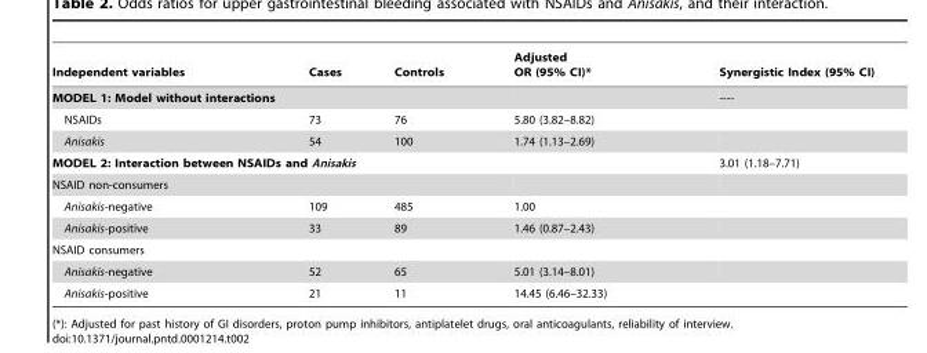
<table><thead><tr><td>Independent variables</td><td>Cases</td><td>Controls</td><td>Adjusted OR (95% CI)*</td><td>Synergistic Index (95% CI)</td></tr></thead><tbody><tr><td colspan="4">MODEL 1: Model without interactions</td><td>----</td></tr><tr><td>NSAIDs</td><td>73</td><td>76</td><td>5.80 (3.82–8.82)</td><td></td></tr><tr><td>Anisakis</td><td>54</td><td>100</td><td>1.74 (1.13–2.69)</td><td></td></tr><tr><td colspan="4">MODEL 2: Interaction between NSAIDs and Anisakis</td><td>3.01 (1.18–7.71)</td></tr><tr><td colspan="5">NSAID non-consumers</td></tr><tr><td>Anisakis-negative</td><td>109</td><td>485</td><td>1.00</td><td></td></tr><tr><td>Anisakis-positive</td><td>33</td><td>89</td><td>1.46 (0.87–2.43)</td><td></td></tr><tr><td colspan="5">NSAID consumers</td></tr><tr><td>Anisakis-negative</td><td>52</td><td>65</td><td>5.01 (3.14–8.01)</td><td></td></tr><tr><td>Anisakis-positive</td><td>21</td><td>11</td><td>14.45 (6.46–32.33)</td><td></td></tr></tbody></table>